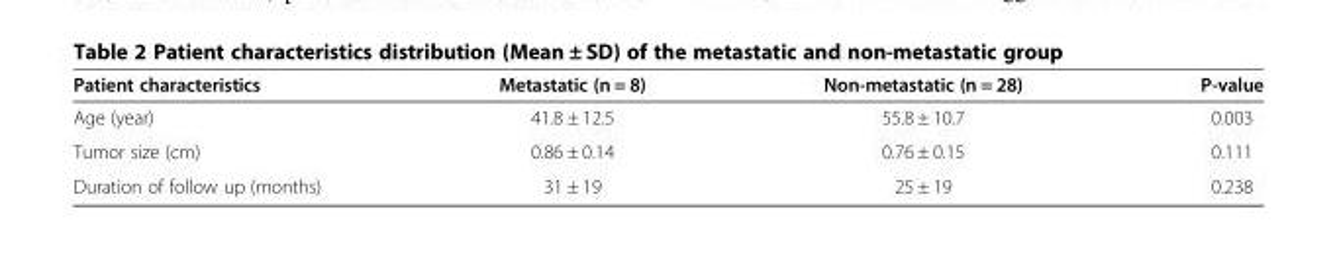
<table><thead><tr><td>Patient characteristics</td><td>Metastatic (n = 8)</td><td>Non-metastatic (n = 28)</td><td>P-value</td></tr></thead><tbody><tr><td>Age (year)</td><td>41.8 ± 12.5</td><td>55.8 ± 10.7</td><td>0.003</td></tr><tr><td>Tumor size (cm)</td><td>0.86 ± 0.14</td><td>0.76 ± 0.15</td><td>0.111</td></tr><tr><td>Duration of follow up (months)</td><td>31 ± 19</td><td>25 ± 19</td><td>0.238</td></tr></tbody></table>